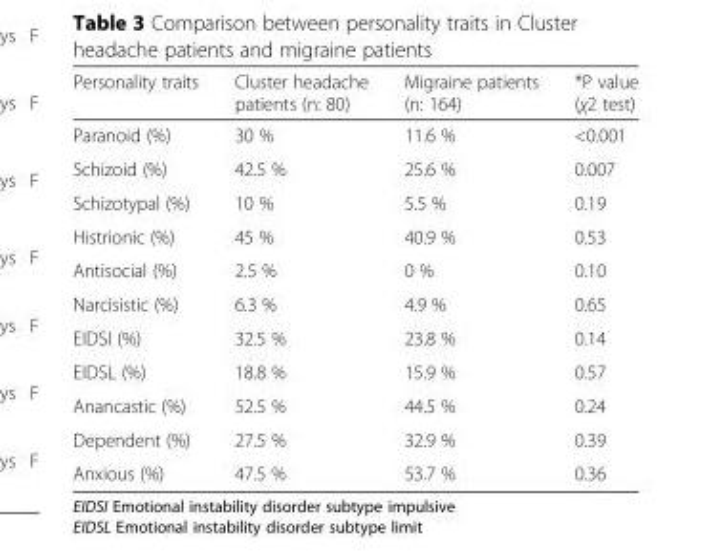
<table><thead><tr><td>Personality traits</td><td>Cluster headache patients (n: 80)</td><td>Migraine patients (n: 164)</td><td>*P value (χ2 test)</td></tr></thead><tbody><tr><td>Paranoid (%)</td><td>30 %</td><td>11.6 %</td><td>&lt;0.001</td></tr><tr><td>Schizoid (%)</td><td>42.5 %</td><td>25.6 %</td><td>0.007</td></tr><tr><td>Schizotypal (%)</td><td>10 %</td><td>5.5 %</td><td>0.19</td></tr><tr><td>Histrionic (%)</td><td>45 %</td><td>40.9 %</td><td>0.53</td></tr><tr><td>Antisocial (%)</td><td>2.5 %</td><td>0 %</td><td>0.10</td></tr><tr><td>Narcisistic (%)</td><td>6.3 %</td><td>4.9 %</td><td>0.65</td></tr><tr><td>EIDSI (%)</td><td>32.5 %</td><td>23.8 %</td><td>0.14</td></tr><tr><td>EIDSL (%)</td><td>18.8 %</td><td>15.9 %</td><td>0.57</td></tr><tr><td>Anancastic (%)</td><td>52.5 %</td><td>44.5 %</td><td>0.24</td></tr><tr><td>Dependent (%)</td><td>27.5 %</td><td>32.9 %</td><td>0.39</td></tr><tr><td>Anxious (%)</td><td>47.5 %</td><td>53.7 %</td><td>0.36</td></tr></tbody></table>